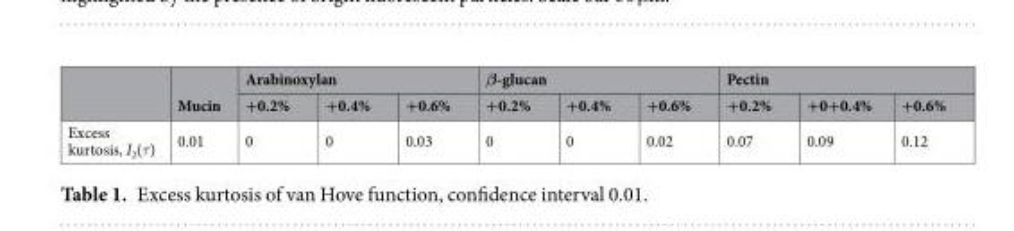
<table><thead><tr><td rowspan="2"></td><td rowspan="2">Mucin</td><td colspan="3">Arabinoxylan</td><td colspan="3">β-glucan</td><td colspan="3">Pectin</td></tr><tr><td>+0.2%</td><td>+0.4%</td><td>+0.6%</td><td>+0.2%</td><td>+0.4%</td><td>+0.6%</td><td>+0.2%</td><td>+0+0.4%</td><td>+0.6%</td></tr></thead><tbody><tr><td>Excess kurtosis, I<sub>2</sub>(τ)</td><td>0.01</td><td>0</td><td>0</td><td>0.03</td><td>0</td><td>0</td><td>0.02</td><td>0.07</td><td>0.09</td><td>0.12</td></tr></tbody></table>